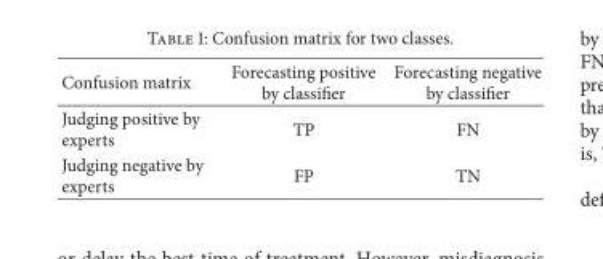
<table><thead><tr><td>Confusion matrix</td><td>Forecasting positive by classifier</td><td>Forecasting negative by classifier</td></tr></thead><tbody><tr><td>Judging positive by experts</td><td>TP</td><td>FN</td></tr><tr><td>Judging negative by experts</td><td>FP</td><td>TN</td></tr></tbody></table>